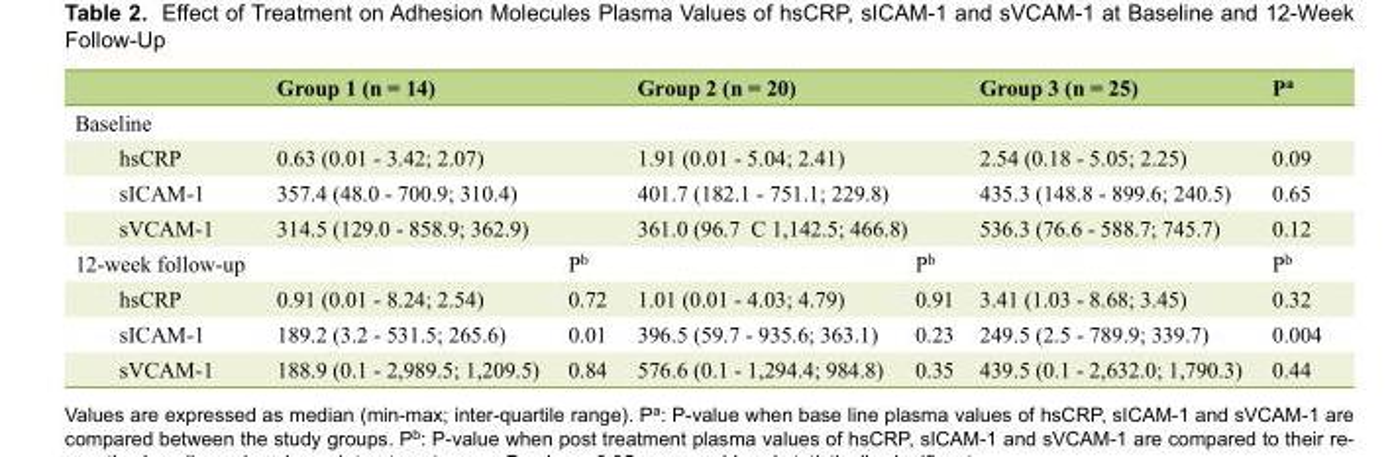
<table><thead><tr><td></td><td colspan="2">Group 1 (n = 14)</td><td colspan="2">Group 2 (n = 20)</td><td>Group 3 (n = 25)</td><td>P<sup>a</sup></td></tr></thead><tbody><tr><td colspan="7">Baseline</td></tr><tr><td>hsCRP</td><td colspan="2">0.63 (0.01 - 3.42; 2.07)</td><td colspan="2">1.91 (0.01 - 5.04; 2.41)</td><td>2.54 (0.18 - 5.05; 2.25)</td><td>0.09</td></tr><tr><td>sICAM-1</td><td colspan="2">357.4 (48.0 - 700.9; 310.4)</td><td colspan="2">401.7 (182.1 - 751.1; 229.8)</td><td>435.3 (148.8 - 899.6; 240.5)</td><td>0.65</td></tr><tr><td>sVCAM-1</td><td colspan="2">314.5 (129.0 - 858.9; 362.9)</td><td colspan="2">361.0 (96.7 C 1,142.5; 466.8)</td><td>536.3 (76.6 - 588.7; 745.7)</td><td>0.12</td></tr><tr><td>12-week follow-up</td><td></td><td>P<sup>b</sup></td><td></td><td>P<sup>b</sup></td><td></td><td>P<sup>b</sup></td></tr><tr><td>hsCRP</td><td>0.91 (0.01 - 8.24; 2.54)</td><td>0.72</td><td>1.01 (0.01 - 4.03; 4.79)</td><td>0.91</td><td>3.41 (1.03 - 8.68; 3.45)</td><td>0.32</td></tr><tr><td>sICAM-1</td><td>189.2 (3.2 - 531.5; 265.6)</td><td>0.01</td><td>396.5 (59.7 - 935.6; 363.1)</td><td>0.23</td><td>249.5 (2.5 - 789.9; 339.7)</td><td>0.004</td></tr><tr><td>sVCAM-1</td><td>188.9 (0.1 - 2,989.5; 1,209.5)</td><td>0.84</td><td>576.6 (0.1 - 1,294.4; 984.8)</td><td>0.35</td><td>439.5 (0.1 - 2,632.0; 1,790.3)</td><td>0.44</td></tr></tbody></table>